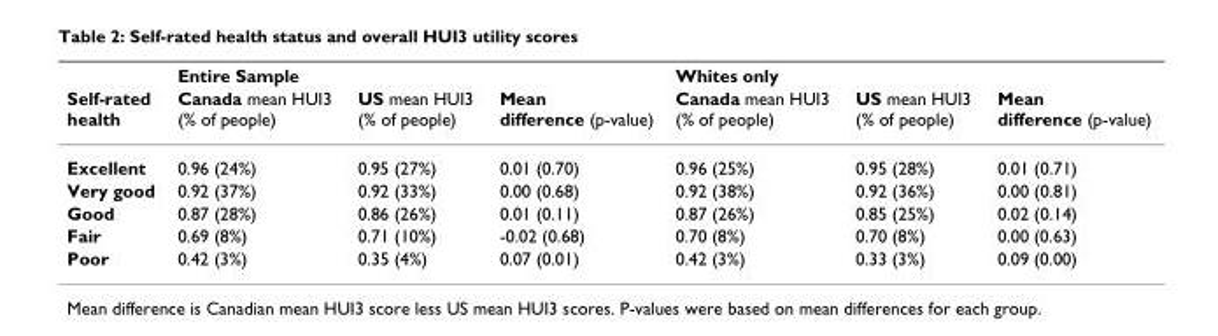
<table><thead><tr><td rowspan="2">Self-rated health</td><td rowspan="2">Entire Sample Canada mean HUI3 (% of people)</td><td rowspan="2">US mean HUI3 (% of people)</td><td rowspan="2">Mean difference (p-value)</td><td rowspan="2">Whites only Canada mean HUI3 (% of people)</td><td rowspan="2">US mean HUI3 (% of people)</td><td rowspan="2">Mean difference (p-value)</td></tr><tr></tr></thead><tbody><tr><td>Excellent</td><td>0.96 (24%)</td><td>0.95 (27%)</td><td>0.01 (0.70)</td><td>0.96 (25%)</td><td>0.95 (28%)</td><td>0.01 (0.71)</td></tr><tr><td>Very good</td><td>0.92 (37%)</td><td>0.92 (33%)</td><td>0.00 (0.68)</td><td>0.92 (38%)</td><td>0.92 (36%)</td><td>0.00 (0.81)</td></tr><tr><td>Good</td><td>0.87 (28%)</td><td>0.86 (26%)</td><td>0.01 (0.11)</td><td>0.87 (26%)</td><td>0.85 (25%)</td><td>0.02 (0.14)</td></tr><tr><td>Fair</td><td>0.69 (8%)</td><td>0.71 (10%)</td><td>-0.02 (0.68)</td><td>0.70 (8%)</td><td>0.70 (8%)</td><td>0.00 (0.63)</td></tr><tr><td>Poor</td><td>0.42 (3%)</td><td>0.35 (4%)</td><td>0.07 (0.01)</td><td>0.42 (3%)</td><td>0.33 (3%)</td><td>0.09 (0.00)</td></tr></tbody></table>